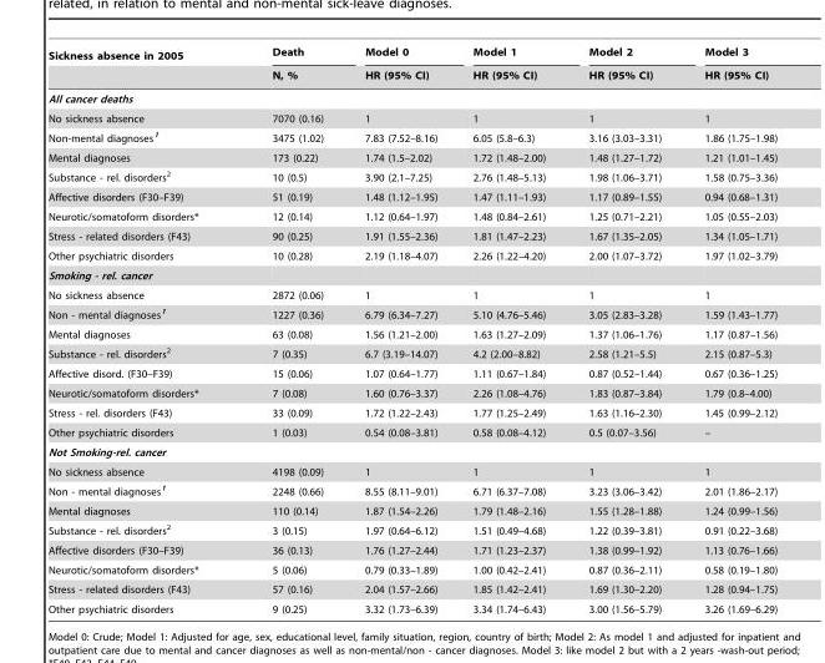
<table><thead><tr><td rowspan="2">Sickness absence in 2005</td><td rowspan="2">Death N, %</td><td rowspan="2">Model 0 HR (95% CI)</td><td rowspan="2">Model 1 HR (95% CI)</td><td rowspan="2">Model 2 HR (95% CI)</td><td rowspan="2">Model 3 HR (95% CI)</td></tr><tr></tr></thead><tbody><tr><td colspan="6">All cancer deaths</td></tr><tr><td>No sickness absence</td><td>7070 (0.16)</td><td>1</td><td>1</td><td>1</td><td>1</td></tr><tr><td>Non-mental diagnoses<sup>1</sup></td><td>3475 (1.02)</td><td>7.83 (7.52–8.16)</td><td>6.05 (5.8–6.3)</td><td>3.16 (3.03–3.31)</td><td>1.86 (1.75–1.98)</td></tr><tr><td>Mental diagnoses</td><td>173 (0.22)</td><td>1.74 (1.5–2.02)</td><td>1.72 (1.48–2.00)</td><td>1.48 (1.27–1.72)</td><td>1.21 (1.01–1.45)</td></tr><tr><td>Substance - rel. disorders<sup>2</sup></td><td>10 (0.5)</td><td>3.90 (2.1–7.25)</td><td>2.76 (1.48–5.13)</td><td>1.98 (1.06–3.71)</td><td>1.58 (0.75–3.36)</td></tr><tr><td>Affective disorders (F30–F39)</td><td>51 (0.19)</td><td>1.48 (1.12–1.95)</td><td>1.47 (1.11–1.93)</td><td>1.17 (0.89–1.55)</td><td>0.94 (0.68–1.31)</td></tr><tr><td>Neurotic/somatoform disorders*</td><td>12 (0.14)</td><td>1.12 (0.64–1.97)</td><td>1.48 (0.84–2.61)</td><td>1.25 (0.71–2.21)</td><td>1.05 (0.55–2.03)</td></tr><tr><td>Stress - related disorders (F43)</td><td>90 (0.25)</td><td>1.91 (1.55–2.36)</td><td>1.81 (1.47–2.23)</td><td>1.67 (1.35–2.05)</td><td>1.34 (1.05–1.71)</td></tr><tr><td>Other psychiatric disorders</td><td>10 (0.28)</td><td>2.19 (1.18–4.07)</td><td>2.26 (1.22–4.20)</td><td>2.00 (1.07–3.72)</td><td>1.97 (1.02–3.79)</td></tr><tr><td colspan="6">Smoking - rel. cancer</td></tr><tr><td>No sickness absence</td><td>2872 (0.06)</td><td>1</td><td>1</td><td>1</td><td>1</td></tr><tr><td>Non - mental diagnoses<sup>1</sup></td><td>1227 (0.36)</td><td>6.79 (6.34–7.27)</td><td>5.10 (4.76–5.46)</td><td>3.05 (2.83–3.28)</td><td>1.59 (1.43–1.77)</td></tr><tr><td>Mental diagnoses</td><td>63 (0.08)</td><td>1.56 (1.21–2.00)</td><td>1.63 (1.27–2.09)</td><td>1.37 (1.06–1.76)</td><td>1.17 (0.87–1.56)</td></tr><tr><td>Substance - rel. disorders<sup>2</sup></td><td>7 (0.35)</td><td>6.7 (3.19–14.07)</td><td>4.2 (2.00–8.82)</td><td>2.58 (1.21–5.5)</td><td>2.15 (0.87–5.3)</td></tr><tr><td>Affective disord. (F30–F39)</td><td>15 (0.06)</td><td>1.07 (0.64–1.77)</td><td>1.11 (0.67–1.84)</td><td>0.87 (0.52–1.44)</td><td>0.67 (0.36–1.25)</td></tr><tr><td>Neurotic/somatoform disorders*</td><td>7 (0.08)</td><td>1.60 (0.76–3.37)</td><td>2.26 (1.08–4.76)</td><td>1.83 (0.87–3.84)</td><td>1.79 (0.8–4.00)</td></tr><tr><td>Stress - rel. disorders (F43)</td><td>33 (0.09)</td><td>1.72 (1.22–2.43)</td><td>1.77 (1.25–2.49)</td><td>1.63 (1.16–2.30)</td><td>1.45 (0.99–2.12)</td></tr><tr><td>Other psychiatric disorders</td><td>1 (0.03)</td><td>0.54 (0.08–3.81)</td><td>0.58 (0.08–4.12)</td><td>0.5 (0.07–3.56)</td><td>–</td></tr><tr><td colspan="6">Not Smoking-rel. cancer</td></tr><tr><td>No sickness absence</td><td>4198 (0.09)</td><td>1</td><td>1</td><td>1</td><td>1</td></tr><tr><td>Non - mental diagnoses<sup>1</sup></td><td>2248 (0.66)</td><td>8.55 (8.11–9.01)</td><td>6.71 (6.37–7.08)</td><td>3.23 (3.06–3.42)</td><td>2.01 (1.86–2.17)</td></tr><tr><td>Mental diagnoses</td><td>110 (0.14)</td><td>1.87 (1.54–2.26)</td><td>1.79 (1.48–2.16)</td><td>1.55 (1.28–1.88)</td><td>1.24 (0.99–1.56)</td></tr><tr><td>Substance - rel. disorders<sup>2</sup></td><td>3 (0.15)</td><td>1.97 (0.64–6.12)</td><td>1.51 (0.49–4.68)</td><td>1.22 (0.39–3.81)</td><td>0.91 (0.22–3.68)</td></tr><tr><td>Affective disorders (F30–F39)</td><td>36 (0.13)</td><td>1.76 (1.27–2.44)</td><td>1.71 (1.23–2.37)</td><td>1.38 (0.99–1.92)</td><td>1.13 (0.76–1.66)</td></tr><tr><td>Neurotic/somatoform disorders*</td><td>5 (0.06)</td><td>0.79 (0.33–1.89)</td><td>1.00 (0.42–2.41)</td><td>0.87 (0.36–2.11)</td><td>0.58 (0.19–1.80)</td></tr><tr><td>Stress - related disorders (F43)</td><td>57 (0.16)</td><td>2.04 (1.57–2.66)</td><td>1.85 (1.42–2.41)</td><td>1.69 (1.30–2.20)</td><td>1.28 (0.94–1.75)</td></tr><tr><td>Other psychiatric disorders</td><td>9 (0.25)</td><td>3.32 (1.73–6.39)</td><td>3.34 (1.74–6.43)</td><td>3.00 (1.56–5.79)</td><td>3.26 (1.69–6.29)</td></tr></tbody></table>